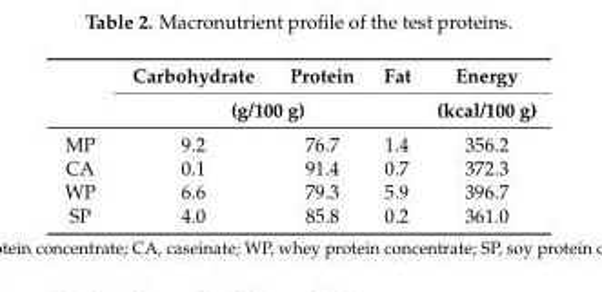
<table><thead><tr><td rowspan="2"></td><td>Carbohydrate</td><td>Protein</td><td>Fat</td><td rowspan="2">Energy (kcal/100 g)</td></tr><tr><td colspan="3">(g/100 g)</td></tr></thead><tbody><tr><td>MP</td><td>9.2</td><td>76.7</td><td>1.4</td><td>356.2</td></tr><tr><td>CA</td><td>0.1</td><td>91.4</td><td>0.7</td><td>372.3</td></tr><tr><td>WP</td><td>6.6</td><td>79.3</td><td>5.9</td><td>396.7</td></tr><tr><td>SP</td><td>4.0</td><td>85.8</td><td>0.2</td><td>361.0</td></tr></tbody></table>